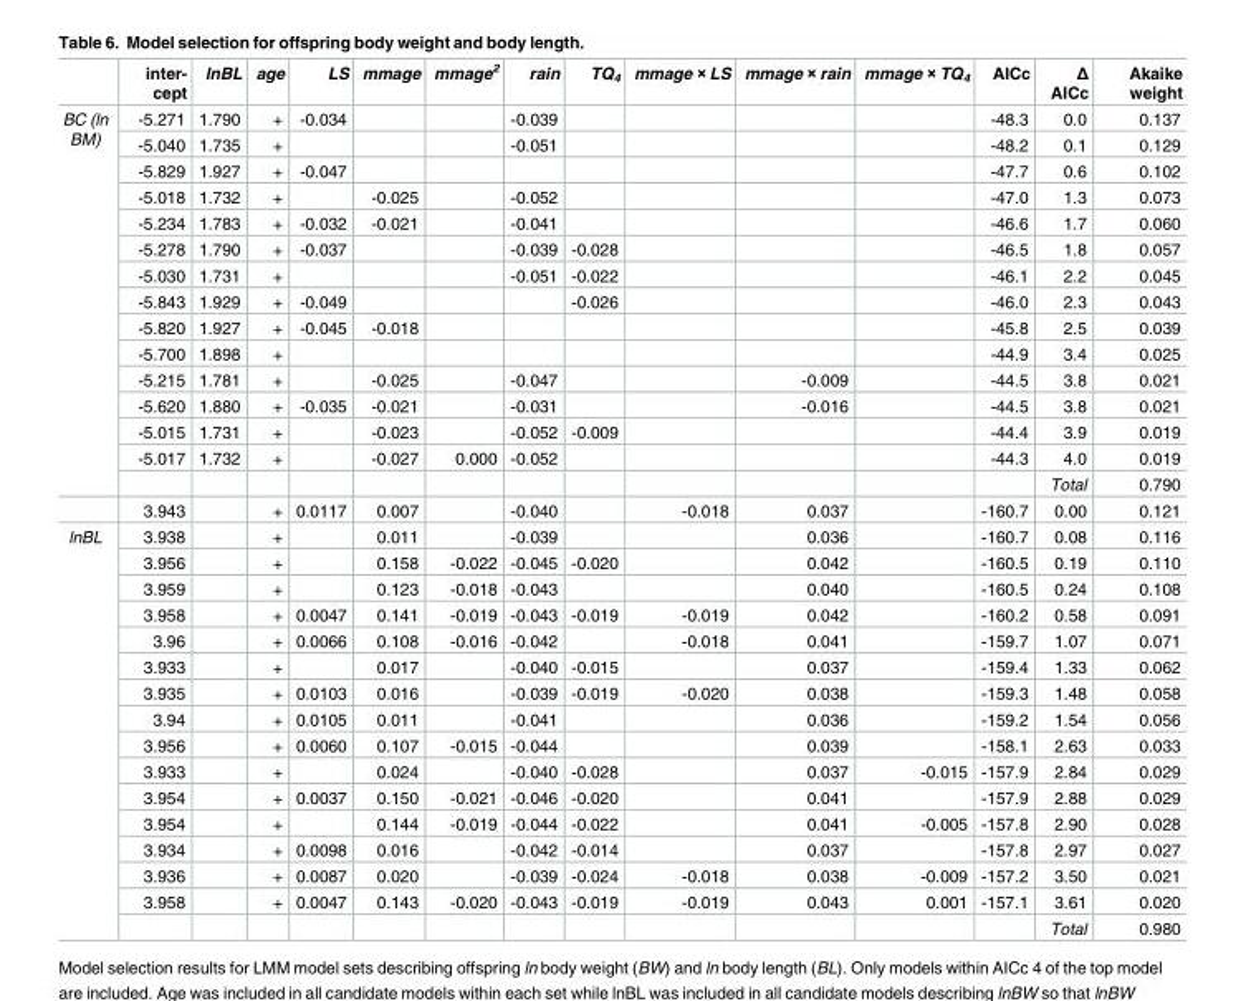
<table><thead><tr><td></td><td>inter- cept</td><td>lnBL</td><td>age</td><td>LS</td><td>mmage</td><td>mmage<sup>2</sup></td><td>rain</td><td>TQ<sub>4</sub></td><td>mmage × LS</td><td>mmage × rain</td><td>mmage × TQ<sub>4</sub></td><td>AICc</td><td>Δ AICc</td><td>Akaike weight</td></tr></thead><tbody><tr><td rowspan="16">BC (ln BM)</td><td>-5.271</td><td>1.790</td><td>+</td><td>-0.034</td><td></td><td></td><td>-0.039</td><td></td><td></td><td></td><td></td><td>-48.3</td><td>0.0</td><td>0.137</td></tr><tr><td>-5.040</td><td>1.735</td><td>+</td><td></td><td></td><td></td><td>-0.051</td><td></td><td></td><td></td><td></td><td>-48.2</td><td>0.1</td><td>0.129</td></tr><tr><td>-5.829</td><td>1.927</td><td>+</td><td>-0.047</td><td></td><td></td><td></td><td></td><td></td><td></td><td></td><td>-47.7</td><td>0.6</td><td>0.102</td></tr><tr><td>-5.018</td><td>1.732</td><td>+</td><td></td><td>-0.025</td><td></td><td>-0.052</td><td></td><td></td><td></td><td></td><td>-47.0</td><td>1.3</td><td>0.073</td></tr><tr><td>-5.234</td><td>1.783</td><td>+</td><td>-0.032</td><td>-0.021</td><td></td><td>-0.041</td><td></td><td></td><td></td><td></td><td>-46.6</td><td>1.7</td><td>0.060</td></tr><tr><td>-5.278</td><td>1.790</td><td>+</td><td>-0.037</td><td></td><td></td><td>-0.039</td><td>-0.028</td><td></td><td></td><td></td><td>-46.5</td><td>1.8</td><td>0.057</td></tr><tr><td>-5.030</td><td>1.731</td><td>+</td><td></td><td></td><td></td><td>-0.051</td><td>-0.022</td><td></td><td></td><td></td><td>-46.1</td><td>2.2</td><td>0.045</td></tr><tr><td>-5.843</td><td>1.929</td><td>+</td><td>-0.049</td><td></td><td></td><td></td><td>-0.026</td><td></td><td></td><td></td><td>-46.0</td><td>2.3</td><td>0.043</td></tr><tr><td>-5.820</td><td>1.927</td><td>+</td><td>-0.045</td><td>-0.018</td><td></td><td></td><td></td><td></td><td></td><td></td><td>-45.8</td><td>2.5</td><td>0.039</td></tr><tr><td>-5.700</td><td>1.898</td><td>+</td><td></td><td></td><td></td><td></td><td></td><td></td><td></td><td></td><td>-44.9</td><td>3.4</td><td>0.025</td></tr><tr><td>-5.215</td><td>1.781</td><td>+</td><td></td><td>-0.025</td><td></td><td>-0.047</td><td></td><td></td><td>-0.009</td><td></td><td>-44.5</td><td>3.8</td><td>0.021</td></tr><tr><td>-5.620</td><td>1.880</td><td>+</td><td>-0.035</td><td>-0.021</td><td></td><td>-0.031</td><td></td><td></td><td>-0.016</td><td></td><td>-44.5</td><td>3.8</td><td>0.021</td></tr><tr><td>-5.015</td><td>1.731</td><td>+</td><td></td><td>-0.023</td><td></td><td>-0.052</td><td>-0.009</td><td></td><td></td><td></td><td>-44.4</td><td>3.9</td><td>0.019</td></tr><tr><td>-5.017</td><td>1.732</td><td>+</td><td></td><td>-0.027</td><td>0.000</td><td>-0.052</td><td></td><td></td><td></td><td></td><td>-44.3</td><td>4.0</td><td>0.019</td></tr><tr><td></td><td></td><td></td><td></td><td></td><td></td><td></td><td></td><td></td><td></td><td></td><td></td><td>Total</td><td>0.790</td></tr><tr><td>3.943</td><td></td><td>+</td><td>0.0117</td><td>0.007</td><td></td><td>-0.040</td><td></td><td>-0.018</td><td>0.037</td><td></td><td>-160.7</td><td>0.00</td><td>0.121</td></tr><tr><td rowspan="16">lnBL</td><td>3.938</td><td></td><td>+</td><td></td><td>0.011</td><td></td><td>-0.039</td><td></td><td></td><td>0.036</td><td></td><td>-160.7</td><td>0.08</td><td>0.116</td></tr><tr><td>3.956</td><td></td><td>+</td><td></td><td>0.158</td><td>-0.022</td><td>-0.045</td><td>-0.020</td><td></td><td>0.042</td><td></td><td>-160.5</td><td>0.19</td><td>0.110</td></tr><tr><td>3.959</td><td></td><td>+</td><td></td><td>0.123</td><td>-0.018</td><td>-0.043</td><td></td><td></td><td>0.040</td><td></td><td>-160.5</td><td>0.24</td><td>0.108</td></tr><tr><td>3.958</td><td></td><td>+</td><td>0.0047</td><td>0.141</td><td>-0.019</td><td>-0.043</td><td>-0.019</td><td>-0.019</td><td>0.042</td><td></td><td>-160.2</td><td>0.58</td><td>0.091</td></tr><tr><td>3.96</td><td></td><td>+</td><td>0.0066</td><td>0.108</td><td>-0.016</td><td>-0.042</td><td></td><td>-0.018</td><td>0.041</td><td></td><td>-159.7</td><td>1.07</td><td>0.071</td></tr><tr><td>3.933</td><td></td><td>+</td><td></td><td>0.017</td><td></td><td>-0.040</td><td>-0.015</td><td></td><td>0.037</td><td></td><td>-159.4</td><td>1.33</td><td>0.062</td></tr><tr><td>3.935</td><td></td><td>+</td><td>0.0103</td><td>0.016</td><td></td><td>-0.039</td><td>-0.019</td><td>-0.020</td><td>0.038</td><td></td><td>-159.3</td><td>1.48</td><td>0.058</td></tr><tr><td>3.94</td><td></td><td>+</td><td>0.0105</td><td>0.011</td><td></td><td>-0.041</td><td></td><td></td><td>0.036</td><td></td><td>-159.2</td><td>1.54</td><td>0.056</td></tr><tr><td>3.956</td><td></td><td>+</td><td>0.0060</td><td>0.107</td><td>-0.015</td><td>-0.044</td><td></td><td></td><td>0.039</td><td></td><td>-158.1</td><td>2.63</td><td>0.033</td></tr><tr><td>3.933</td><td></td><td>+</td><td></td><td>0.024</td><td></td><td>-0.040</td><td>-0.028</td><td></td><td>0.037</td><td>-0.015</td><td>-157.9</td><td>2.84</td><td>0.029</td></tr><tr><td>3.954</td><td></td><td>+</td><td>0.0037</td><td>0.150</td><td>-0.021</td><td>-0.046</td><td>-0.020</td><td></td><td>0.041</td><td></td><td>-157.9</td><td>2.88</td><td>0.029</td></tr><tr><td>3.954</td><td></td><td>+</td><td></td><td>0.144</td><td>-0.019</td><td>-0.044</td><td>-0.022</td><td></td><td>0.041</td><td>-0.005</td><td>-157.8</td><td>2.90</td><td>0.028</td></tr><tr><td>3.934</td><td></td><td>+</td><td>0.0098</td><td>0.016</td><td></td><td>-0.042</td><td>-0.014</td><td></td><td>0.037</td><td></td><td>-157.8</td><td>2.97</td><td>0.027</td></tr><tr><td>3.936</td><td></td><td>+</td><td>0.0087</td><td>0.020</td><td></td><td>-0.039</td><td>-0.024</td><td>-0.018</td><td>0.038</td><td>-0.009</td><td>-157.2</td><td>3.50</td><td>0.021</td></tr><tr><td>3.958</td><td></td><td>+</td><td>0.0047</td><td>0.143</td><td>-0.020</td><td>-0.043</td><td>-0.019</td><td>-0.019</td><td>0.043</td><td>0.001</td><td>-157.1</td><td>3.61</td><td>0.020</td></tr><tr><td></td><td></td><td></td><td></td><td></td><td></td><td></td><td></td><td></td><td></td><td></td><td></td><td>Total</td><td>0.980</td></tr></tbody></table>